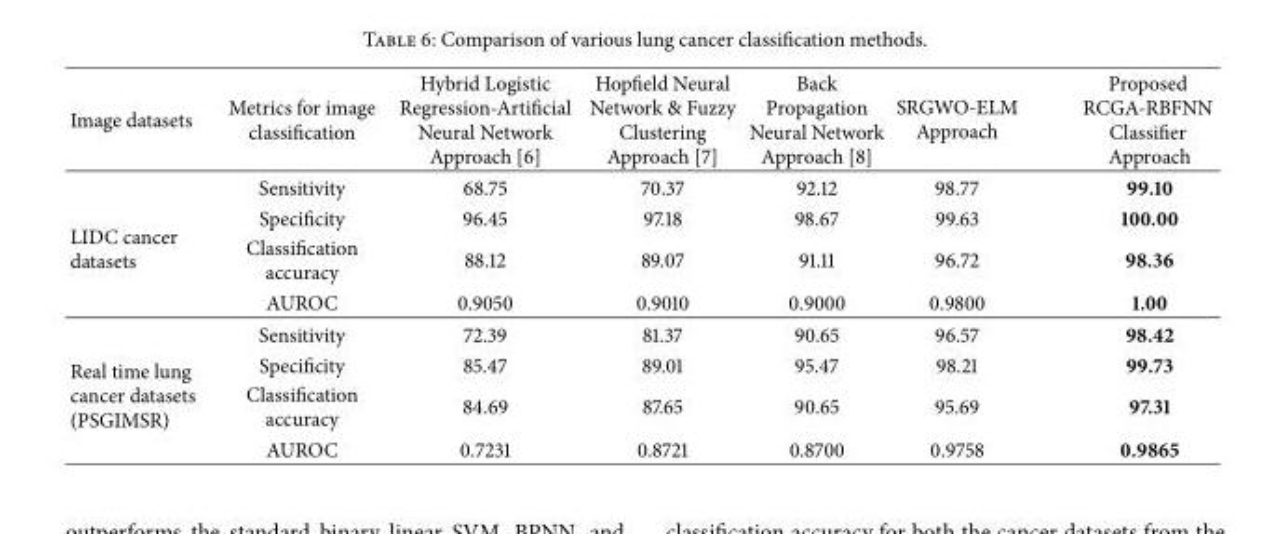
<table><thead><tr><td>Image datasets</td><td>Metrics for image classification</td><td>Hybrid Logistic Regression-Artificial Neural Network Approach [6]</td><td>Hopfield Neural Network &amp; Fuzzy Clustering Approach [7]</td><td>Back Propagation Neural Network Approach [8]</td><td>SRGWO-ELM Approach</td><td>Proposed RCGA-RBFNN Classifier Approach</td></tr></thead><tbody><tr><td rowspan="4">LIDC cancer datasets</td><td>Sensitivity</td><td>68.75</td><td>70.37</td><td>92.12</td><td>98.77</td><td>99.10</td></tr><tr><td>Specificity</td><td>96.45</td><td>97.18</td><td>98.67</td><td>99.63</td><td>100.00</td></tr><tr><td>Classification accuracy</td><td>88.12</td><td>89.07</td><td>91.11</td><td>96.72</td><td>98.36</td></tr><tr><td>AUROC</td><td>0.9050</td><td>0.9010</td><td>0.9000</td><td>0.9800</td><td>1.00</td></tr><tr><td rowspan="4">Real time lung cancer datasets (PSGIMSR)</td><td>Sensitivity</td><td>72.39</td><td>81.37</td><td>90.65</td><td>96.57</td><td>98.42</td></tr><tr><td>Specificity</td><td>85.47</td><td>89.01</td><td>95.47</td><td>98.21</td><td>99.73</td></tr><tr><td>Classification accuracy</td><td>84.69</td><td>87.65</td><td>90.65</td><td>95.69</td><td>97.31</td></tr><tr><td>AUROC</td><td>0.7231</td><td>0.8721</td><td>0.8700</td><td>0.9758</td><td>0.9865</td></tr></tbody></table>